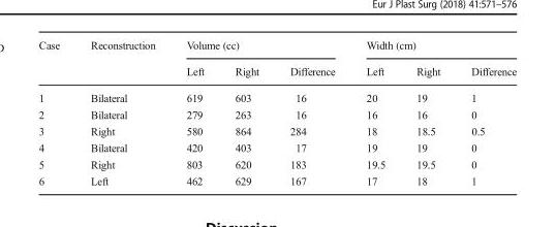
<table><thead><tr><td rowspan="2">Case</td><td rowspan="2">Reconstruction</td><td colspan="3">Volume (cc)</td><td colspan="3">Width (cm)</td></tr><tr><td>Left</td><td>Right</td><td>Difference</td><td>Left</td><td>Right</td><td>Difference</td></tr></thead><tbody><tr><td>1</td><td>Bilateral</td><td>619</td><td>603</td><td>16</td><td>20</td><td>19</td><td>1</td></tr><tr><td>2</td><td>Bilateral</td><td>279</td><td>263</td><td>16</td><td>16</td><td>16</td><td>0</td></tr><tr><td>3</td><td>Right</td><td>580</td><td>864</td><td>284</td><td>18</td><td>18.5</td><td>0.5</td></tr><tr><td>4</td><td>Bilateral</td><td>420</td><td>403</td><td>17</td><td>19</td><td>19</td><td>0</td></tr><tr><td>5</td><td>Right</td><td>803</td><td>620</td><td>183</td><td>19.5</td><td>19.5</td><td>0</td></tr><tr><td>6</td><td>Left</td><td>462</td><td>629</td><td>167</td><td>17</td><td>18</td><td>1</td></tr></tbody></table>